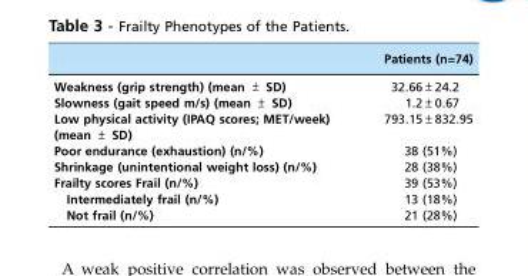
<table><thead><tr><td></td><td>Patients (n=74)</td></tr></thead><tbody><tr><td>Weakness (grip strength) (mean ± SD)</td><td>32.66±24.2</td></tr><tr><td>Slowness (gait speed m/s) (mean ± SD)</td><td>1.2±0.67</td></tr><tr><td>Low physical activity (IPAQ scores; MET/week) (mean ± SD)</td><td>793.15±832.95</td></tr><tr><td>Poor endurance (exhaustion) (n/%)</td><td>38 (51%)</td></tr><tr><td>Shrinkage (unintentional weight loss) (n/%)</td><td>28 (38%)</td></tr><tr><td>Frailty scores Frail (n/%)</td><td>39 (53%)</td></tr><tr><td>Intermediately frail (n/%)</td><td>13 (18%)</td></tr><tr><td>Not frail (n/%)</td><td>21 (28%)</td></tr></tbody></table>